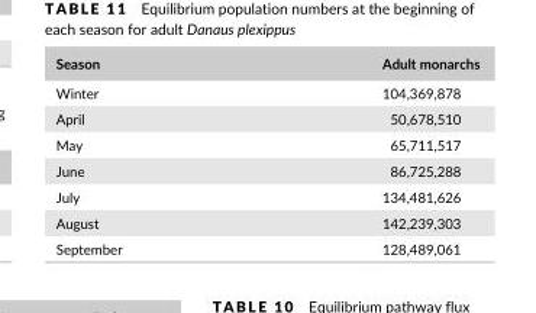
<table><thead><tr><td>Season</td><td>Adult monarchs</td></tr></thead><tbody><tr><td>Winter</td><td>104,369,878</td></tr><tr><td>April</td><td>50,678,510</td></tr><tr><td>May</td><td>65,711,517</td></tr><tr><td>June</td><td>86,725,288</td></tr><tr><td>July</td><td>134,481,626</td></tr><tr><td>August</td><td>142,239,303</td></tr><tr><td>September</td><td>128,489,061</td></tr></tbody></table>